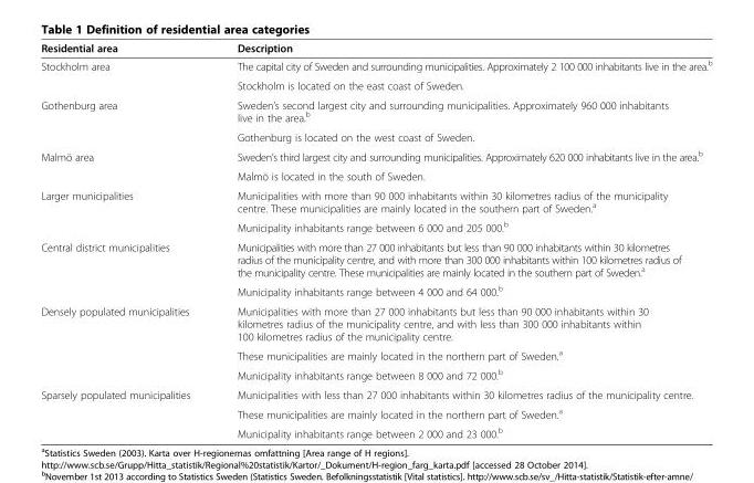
<table><thead><tr><td>Residential area</td><td>Description</td></tr></thead><tbody><tr><td rowspan="2">Stockholm area</td><td>The capital city of Sweden and surrounding municipalities. Approximately 2 100 000 inhabitants live in the area.<sup>b</sup></td></tr><tr><td>Stockholm is located on the east coast of Sweden.</td></tr><tr><td rowspan="2">Gothenburg area</td><td>Sweden’s second largest city and surrounding municipalities. Approximately 960 000 inhabitants live in the area.<sup>b</sup></td></tr><tr><td>Gothenburg is located on the west coast of Sweden.</td></tr><tr><td rowspan="2">Malmö area</td><td>Sweden’s third largest city and surrounding municipalities. Approximately 620 000 inhabitants live in the area.<sup>b</sup></td></tr><tr><td>Malmö is located in the south of Sweden.</td></tr><tr><td rowspan="2">Larger municipalities</td><td>Municipalities with more than 90 000 inhabitants within 30 kilometres radius of the municipality centre. These municipalities are mainly located in the southern part of Sweden.<sup>a</sup></td></tr><tr><td>Municipality inhabitants range between 6 000 and 205 000.<sup>b</sup></td></tr><tr><td rowspan="2">Central district municipalities</td><td>Municipalities with more than 27 000 inhabitants but less than 90 000 inhabitants within 30 kilometres radius of the municipality centre, and with more than 300 000 inhabitants within 100 kilometres radius of the municipality centre. These municipalities are mainly located in the southern part of Sweden.<sup>a</sup></td></tr><tr><td>Municipality inhabitants range between 4 000 and 64 000.<sup>b</sup></td></tr><tr><td rowspan="3">Densely populated municipalities</td><td>Municipalities with more than 27 000 inhabitants but less than 90 000 inhabitants within 30 kilometres radius of the municipality centre, and with less than 300 000 inhabitants within 100 kilometres radius of the municipality centre.</td></tr><tr><td>These municipalities are mainly located in the northern part of Sweden.<sup>a</sup></td></tr><tr><td>Municipality inhabitants range between 8 000 and 72 000.<sup>b</sup></td></tr><tr><td rowspan="3">Sparsely populated municipalities</td><td>Municipalities with less than 27 000 inhabitants within 30 kilometres radius of the municipality centre.</td></tr><tr><td>These municipalities are mainly located in the northern part of Sweden.<sup>a</sup></td></tr><tr><td>Municipality inhabitants range between 2 000 and 23 000.<sup>b</sup></td></tr></tbody></table>